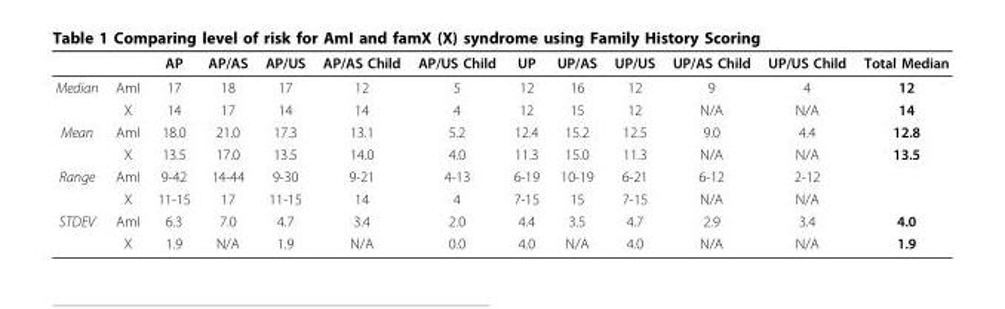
<table><thead><tr><td></td><td></td><td>AP</td><td>AP/AS</td><td>AP/US</td><td>AP/AS Child</td><td>AP/US Child</td><td>UP</td><td>UP/AS</td><td>UP/US</td><td>UP/AS Child</td><td>UP/US Child</td><td>Total Median</td></tr></thead><tbody><tr><td rowspan="2">Median</td><td>AmI</td><td>17</td><td>18</td><td>17</td><td>12</td><td>5</td><td>12</td><td>16</td><td>12</td><td>9</td><td>4</td><td>12</td></tr><tr><td>X</td><td>14</td><td>17</td><td>14</td><td>14</td><td>4</td><td>12</td><td>15</td><td>12</td><td>N/A</td><td>N/A</td><td>14</td></tr><tr><td rowspan="2">Mean</td><td>AmI</td><td>18.0</td><td>21.0</td><td>17.3</td><td>13.1</td><td>5.2</td><td>12.4</td><td>15.2</td><td>12.5</td><td>9.0</td><td>4.4</td><td>12.8</td></tr><tr><td>X</td><td>13.5</td><td>17.0</td><td>13.5</td><td>14.0</td><td>4.0</td><td>11.3</td><td>15.0</td><td>11.3</td><td>N/A</td><td>N/A</td><td>13.5</td></tr><tr><td rowspan="2">Range</td><td>AmI</td><td>9-42</td><td>14-44</td><td>9-30</td><td>9-21</td><td>4-13</td><td>6-19</td><td>10-19</td><td>6-21</td><td>6-12</td><td>2-12</td><td></td></tr><tr><td>X</td><td>11-15</td><td>17</td><td>11-15</td><td>14</td><td>4</td><td>7-15</td><td>15</td><td>7-15</td><td>N/A</td><td>N/A</td><td></td></tr><tr><td rowspan="2">STDEV</td><td>AmI</td><td>6.3</td><td>7.0</td><td>4.7</td><td>3.4</td><td>2.0</td><td>4.4</td><td>3.5</td><td>4.7</td><td>2.9</td><td>3.4</td><td>4.0</td></tr><tr><td>X</td><td>1.9</td><td>N/A</td><td>1.9</td><td>N/A</td><td>0.0</td><td>4.0</td><td>N/A</td><td>4.0</td><td>N/A</td><td>N/A</td><td>1.9</td></tr></tbody></table>